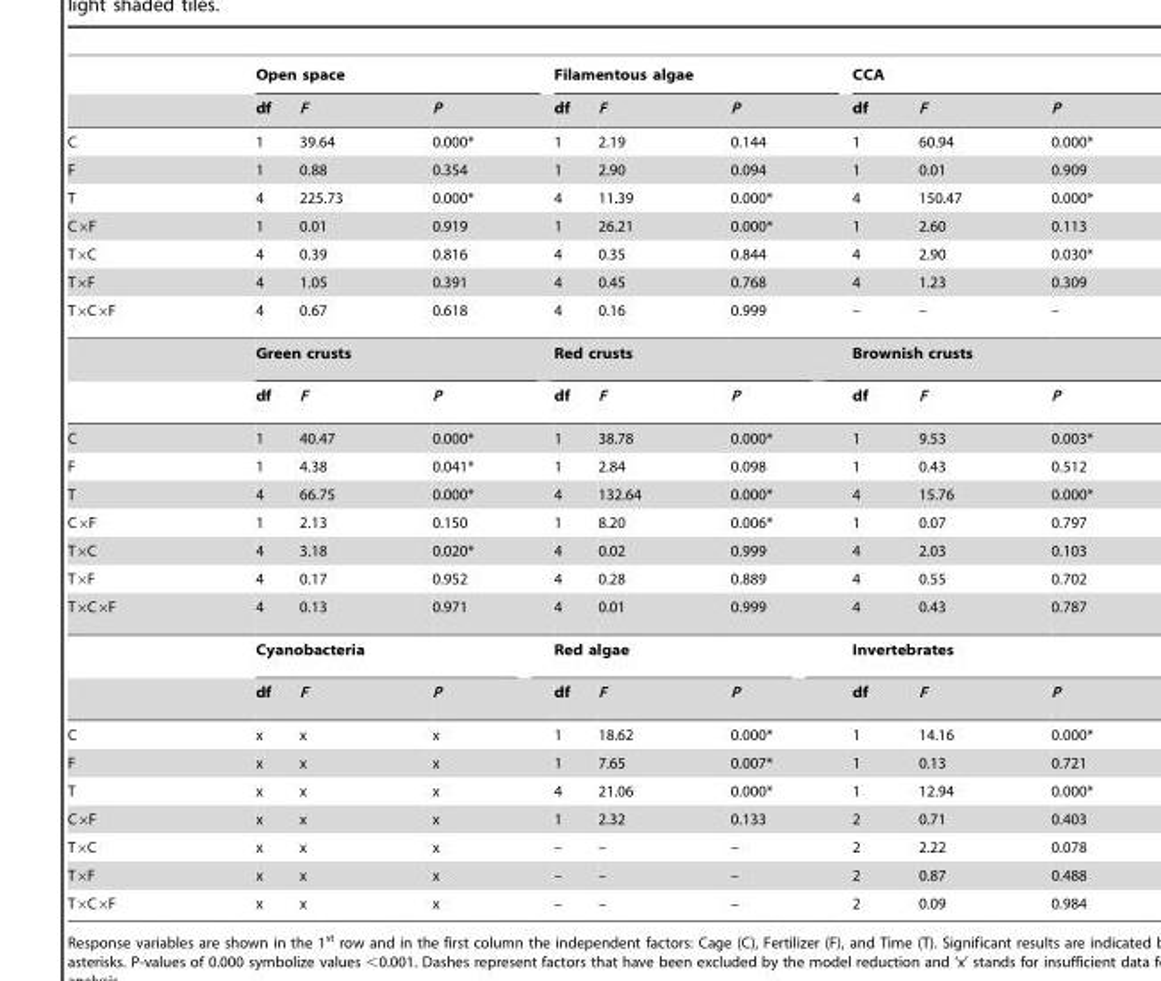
<table><thead><tr><td rowspan="2"></td><td colspan="3">Open space</td><td colspan="3">Filamentous algae</td><td colspan="3">CCA</td></tr><tr><td>df</td><td>F</td><td>P</td><td>df</td><td>F</td><td>P</td><td>df</td><td>F</td><td>P</td></tr></thead><tbody><tr><td>C</td><td>1</td><td>39.64</td><td>0.000*</td><td>1</td><td>2.19</td><td>0.144</td><td>1</td><td>60.94</td><td>0.000*</td></tr><tr><td>F</td><td>1</td><td>0.88</td><td>0.354</td><td>1</td><td>2.90</td><td>0.094</td><td>1</td><td>0.01</td><td>0.909</td></tr><tr><td>T</td><td>4</td><td>225.73</td><td>0.000*</td><td>4</td><td>11.39</td><td>0.000*</td><td>4</td><td>150.47</td><td>0.000*</td></tr><tr><td>C×F</td><td>1</td><td>0.01</td><td>0.919</td><td>1</td><td>26.21</td><td>0.000*</td><td>1</td><td>2.60</td><td>0.113</td></tr><tr><td>T×C</td><td>4</td><td>0.39</td><td>0.816</td><td>4</td><td>0.35</td><td>0.844</td><td>4</td><td>2.90</td><td>0.030*</td></tr><tr><td>T×F</td><td>4</td><td>1.05</td><td>0.391</td><td>4</td><td>0.45</td><td>0.768</td><td>4</td><td>1.23</td><td>0.309</td></tr><tr><td rowspan="3">T×C×F</td><td>4</td><td>0.67</td><td>0.618</td><td>4</td><td>0.16</td><td>0.999</td><td>–</td><td>–</td><td>–</td></tr><tr><td colspan="3">Green crusts</td><td colspan="3">Red crusts</td><td colspan="3">Brownish crusts</td></tr><tr><td>df</td><td>F</td><td>P</td><td>df</td><td>F</td><td>P</td><td>df</td><td>F</td><td>P</td></tr><tr><td>C</td><td>1</td><td>40.47</td><td>0.000*</td><td>1</td><td>38.78</td><td>0.000*</td><td>1</td><td>9.53</td><td>0.003*</td></tr><tr><td>F</td><td>1</td><td>4.38</td><td>0.041*</td><td>1</td><td>2.84</td><td>0.098</td><td>1</td><td>0.43</td><td>0.512</td></tr><tr><td>T</td><td>4</td><td>66.75</td><td>0.000*</td><td>4</td><td>132.64</td><td>0.000*</td><td>4</td><td>15.76</td><td>0.000*</td></tr><tr><td>C×F</td><td>1</td><td>2.13</td><td>0.150</td><td>1</td><td>8.20</td><td>0.006*</td><td>1</td><td>0.07</td><td>0.797</td></tr><tr><td>T×C</td><td>4</td><td>3.18</td><td>0.020*</td><td>4</td><td>0.02</td><td>0.999</td><td>4</td><td>2.03</td><td>0.103</td></tr><tr><td>T×F</td><td>4</td><td>0.17</td><td>0.952</td><td>4</td><td>0.28</td><td>0.889</td><td>4</td><td>0.55</td><td>0.702</td></tr><tr><td rowspan="3">T×C×F</td><td>4</td><td>0.13</td><td>0.971</td><td>4</td><td>0.01</td><td>0.999</td><td>4</td><td>0.43</td><td>0.787</td></tr><tr><td colspan="3">Cyanobacteria</td><td colspan="3">Red algae</td><td colspan="3">Invertebrates</td></tr><tr><td>df</td><td>F</td><td>P</td><td>df</td><td>F</td><td>P</td><td>df</td><td>F</td><td>P</td></tr><tr><td>C</td><td>x</td><td>x</td><td>x</td><td>1</td><td>18.62</td><td>0.000*</td><td>1</td><td>14.16</td><td>0.000*</td></tr><tr><td>F</td><td>x</td><td>x</td><td>x</td><td>1</td><td>7.65</td><td>0.007*</td><td>1</td><td>0.13</td><td>0.721</td></tr><tr><td>T</td><td>x</td><td>x</td><td>x</td><td>4</td><td>21.06</td><td>0.000*</td><td>1</td><td>12.94</td><td>0.000*</td></tr><tr><td>C×F</td><td>x</td><td>x</td><td>x</td><td>1</td><td>2.32</td><td>0.133</td><td>2</td><td>0.71</td><td>0.403</td></tr><tr><td>T×C</td><td>x</td><td>x</td><td>x</td><td>–</td><td>–</td><td>–</td><td>2</td><td>2.22</td><td>0.078</td></tr><tr><td>T×F</td><td>x</td><td>x</td><td>x</td><td>–</td><td>–</td><td>–</td><td>2</td><td>0.87</td><td>0.488</td></tr><tr><td>T×C×F</td><td>x</td><td>x</td><td>x</td><td>–</td><td>–</td><td>–</td><td>2</td><td>0.09</td><td>0.984</td></tr></tbody></table>